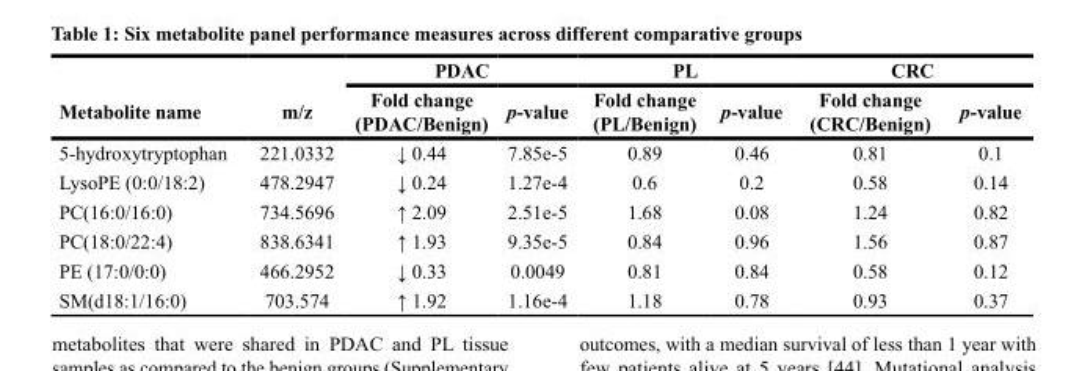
<table><thead><tr><td rowspan="2">Metabolite name</td><td rowspan="2">m/z</td><td colspan="2">PDAC</td><td colspan="2">PL</td><td colspan="2">CRC</td></tr><tr><td>Fold change (PDAC/Benign)</td><td>p-value</td><td>Fold change (PL/Benign)</td><td>p-value</td><td>Fold change (CRC/Benign)</td><td>p-value</td></tr></thead><tbody><tr><td>5-hydroxytryptophan</td><td>221.0332</td><td>↓ 0.44</td><td>7.85e-5</td><td>0.89</td><td>0.46</td><td>0.81</td><td>0.1</td></tr><tr><td>LysoPE (0:0/18:2)</td><td>478.2947</td><td>↓ 0.24</td><td>1.27e-4</td><td>0.6</td><td>0.2</td><td>0.58</td><td>0.14</td></tr><tr><td>PC(16:0/16:0)</td><td>734.5696</td><td>↑ 2.09</td><td>2.51e-5</td><td>1.68</td><td>0.08</td><td>1.24</td><td>0.82</td></tr><tr><td>PC(18:0/22:4)</td><td>838.6341</td><td>↑ 1.93</td><td>9.35e-5</td><td>0.84</td><td>0.96</td><td>1.56</td><td>0.87</td></tr><tr><td>PE (17:0/0:0)</td><td>466.2952</td><td>↓ 0.33</td><td>0.0049</td><td>0.81</td><td>0.84</td><td>0.58</td><td>0.12</td></tr><tr><td>SM(d18:1/16:0)</td><td>703.574</td><td>↑ 1.92</td><td>1.16e-4</td><td>1.18</td><td>0.78</td><td>0.93</td><td>0.37</td></tr></tbody></table>